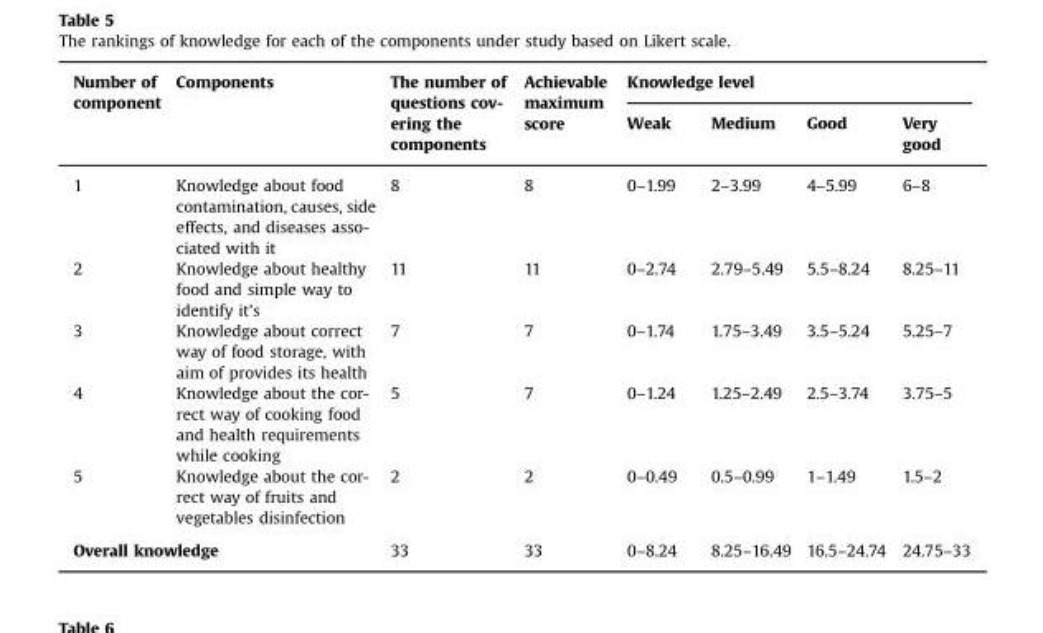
<table><thead><tr><td rowspan="2">Number of component</td><td rowspan="2">Components</td><td rowspan="2">The number of questions cov- ering the components</td><td rowspan="2">Achievable maximum score</td><td colspan="4">Knowledge level</td></tr><tr><td>Weak</td><td>Medium</td><td>Good</td><td>Very good</td></tr></thead><tbody><tr><td>1</td><td>Knowledge about food contamination, causes, side effects, and diseases asso- ciated with it</td><td>8</td><td>8</td><td>0–1.99</td><td>2–3.99</td><td>4–5.99</td><td>6–8</td></tr><tr><td>2</td><td>Knowledge about healthy food and simple way to identify it’s</td><td>11</td><td>11</td><td>0–2.74</td><td>2.79–5.49</td><td>5.5–8.24</td><td>8.25–11</td></tr><tr><td>3</td><td>Knowledge about correct way of food storage, with aim of provides its health</td><td>7</td><td>7</td><td>0–1.74</td><td>1.75–3.49</td><td>3.5–5.24</td><td>5.25–7</td></tr><tr><td>4</td><td>Knowledge about the cor- rect way of cooking food and health requirements while cooking</td><td>5</td><td>7</td><td>0–1.24</td><td>1.25–2.49</td><td>2.5–3.74</td><td>3.75–5</td></tr><tr><td>5</td><td>Knowledge about the cor- rect way of fruits and vegetables disinfection</td><td>2</td><td>2</td><td>0–0.49</td><td>0.5–0.99</td><td>1–1.49</td><td>1.5–2</td></tr><tr><td colspan="2">Overall knowledge</td><td>33</td><td>33</td><td>0–8.24</td><td>8.25–16.49</td><td>16.5–24.74</td><td>24.75–33</td></tr></tbody></table>